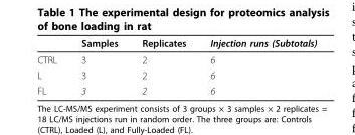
<table><thead><tr><td></td><td>Samples</td><td>Replicates</td><td>Injection runs (Subtotals)</td></tr></thead><tbody><tr><td>CTRL</td><td>3</td><td>2</td><td>6</td></tr><tr><td>L</td><td>3</td><td>2</td><td>6</td></tr><tr><td>FL</td><td>3</td><td>2</td><td>6</td></tr></tbody></table>